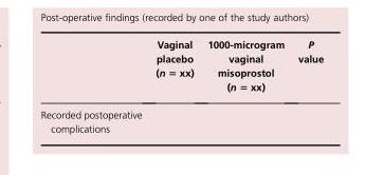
<table><thead><tr><td></td><td>Vaginal placebo (n = xx)</td><td>1000-microgram vaginal misoprostol (n = xx)</td><td>P value</td></tr></thead><tbody><tr><td>Recorded postoperative complications</td><td></td><td></td><td></td></tr></tbody></table>